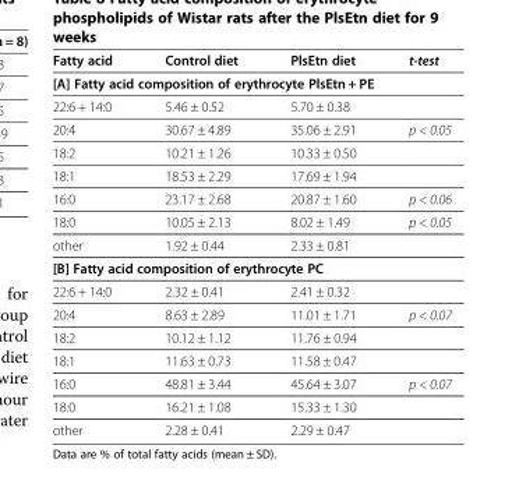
<table><thead><tr><td>Fatty acid</td><td>Control diet</td><td>PlsEtn diet</td><td>t-test</td></tr></thead><tbody><tr><td colspan="4">[A] Fatty acid composition of erythrocyte PlsEtn + PE</td></tr><tr><td>22:6 + 14:0</td><td>5.46 ± 0.52</td><td>5.70 ± 0.38</td><td></td></tr><tr><td>20:4</td><td>30.67 ± 4.89</td><td>35.06 ± 2.91</td><td>p &lt; 0.05</td></tr><tr><td>18:2</td><td>10.21 ± 1.26</td><td>10.33 ± 0.50</td><td></td></tr><tr><td>18:1</td><td>18.53 ± 2.29</td><td>17.69 ± 1.94</td><td></td></tr><tr><td>16:0</td><td>23.17 ± 2.68</td><td>20.87 ± 1.60</td><td>p &lt; 0.06</td></tr><tr><td>18:0</td><td>10.05 ± 2.13</td><td>8.02 ± 1.49</td><td>p &lt; 0.05</td></tr><tr><td>other</td><td>1.92 ± 0.44</td><td>2.33 ± 0.81</td><td></td></tr><tr><td colspan="4">[B] Fatty acid composition of erythrocyte PC</td></tr><tr><td>22:6 + 14:0</td><td>2.32 ± 0.41</td><td>2.41 ± 0.32</td><td></td></tr><tr><td>20:4</td><td>8.63 ± 2.89</td><td>11.01 ± 1.71</td><td>p &lt; 0.07</td></tr><tr><td>18:2</td><td>10.12 ± 1.12</td><td>11.76 ± 0.94</td><td></td></tr><tr><td>18:1</td><td>11.63 ± 0.73</td><td>11.58 ± 0.47</td><td></td></tr><tr><td>16:0</td><td>48.81 ± 3.44</td><td>45.64 ± 3.07</td><td>p &lt; 0.07</td></tr><tr><td>18:0</td><td>16.21 ± 1.08</td><td>15.33 ± 1.30</td><td></td></tr><tr><td>other</td><td>2.28 ± 0.41</td><td>2.29 ± 0.47</td><td></td></tr></tbody></table>